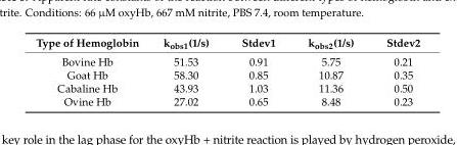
<table><thead><tr><td>Type of Hemoglobin</td><td>k<sub>obs1</sub>(1/s)</td><td>Stdev1</td><td>k<sub>obs2</sub>(1/s)</td><td>Stdev2</td></tr></thead><tbody><tr><td>Bovine Hb</td><td>51.53</td><td>0.91</td><td>5.75</td><td>0.21</td></tr><tr><td>Goat Hb</td><td>58.30</td><td>0.85</td><td>10.87</td><td>0.35</td></tr><tr><td>Cabaline Hb</td><td>43.93</td><td>1.03</td><td>11.36</td><td>0.50</td></tr><tr><td>Ovine Hb</td><td>27.02</td><td>0.65</td><td>8.48</td><td>0.23</td></tr></tbody></table>